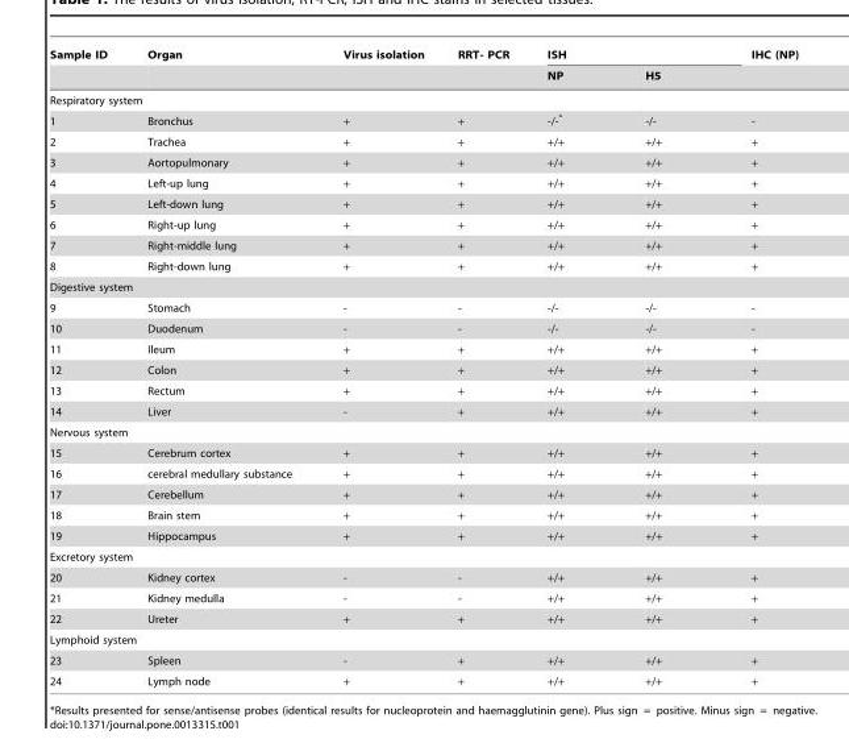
<table><thead><tr><td rowspan="2">Sample ID</td><td rowspan="2">Organ</td><td rowspan="2">Virus isolation</td><td rowspan="2">RRT- PCR</td><td colspan="2">ISH</td><td rowspan="2">IHC (NP)</td></tr><tr><td>NP</td><td>H5</td></tr></thead><tbody><tr><td colspan="7">Respiratory system</td></tr><tr><td>1</td><td>Bronchus</td><td>+</td><td>+</td><td>-/-*</td><td>-/-</td><td>-</td></tr><tr><td>2</td><td>Trachea</td><td>+</td><td>+</td><td>+/+</td><td>+/+</td><td>+</td></tr><tr><td>3</td><td>Aortopulmonary</td><td>+</td><td>+</td><td>+/+</td><td>+/+</td><td>+</td></tr><tr><td>4</td><td>Left-up lung</td><td>+</td><td>+</td><td>+/+</td><td>+/+</td><td>+</td></tr><tr><td>5</td><td>Left-down lung</td><td>+</td><td>+</td><td>+/+</td><td>+/+</td><td>+</td></tr><tr><td>6</td><td>Right-up lung</td><td>+</td><td>+</td><td>+/+</td><td>+/+</td><td>+</td></tr><tr><td>7</td><td>Right-middle lung</td><td>+</td><td>+</td><td>+/+</td><td>+/+</td><td>+</td></tr><tr><td>8</td><td>Right-down lung</td><td>+</td><td>+</td><td>+/+</td><td>+/+</td><td>+</td></tr><tr><td colspan="7">Digestive system</td></tr><tr><td>9</td><td>Stomach</td><td>-</td><td>-</td><td>-/-</td><td>-/-</td><td>-</td></tr><tr><td>10</td><td>Duodenum</td><td>-</td><td>-</td><td>-/-</td><td>-/-</td><td>-</td></tr><tr><td>11</td><td>Ileum</td><td>+</td><td>+</td><td>+/+</td><td>+/+</td><td>+</td></tr><tr><td>12</td><td>Colon</td><td>+</td><td>+</td><td>+/+</td><td>+/+</td><td>+</td></tr><tr><td>13</td><td>Rectum</td><td>+</td><td>+</td><td>+/+</td><td>+/+</td><td>+</td></tr><tr><td>14</td><td>Liver</td><td>-</td><td>+</td><td>+/+</td><td>+/+</td><td>+</td></tr><tr><td colspan="7">Nervous system</td></tr><tr><td>15</td><td>Cerebrum cortex</td><td>+</td><td>+</td><td>+/+</td><td>+/+</td><td>+</td></tr><tr><td>16</td><td>cerebral medullary substance</td><td>+</td><td>+</td><td>+/+</td><td>+/+</td><td>+</td></tr><tr><td>17</td><td>Cerebellum</td><td>+</td><td>+</td><td>+/+</td><td>+/+</td><td>+</td></tr><tr><td>18</td><td>Brain stem</td><td>+</td><td>+</td><td>+/+</td><td>+/+</td><td>+</td></tr><tr><td>19</td><td>Hippocampus</td><td>+</td><td>+</td><td>+/+</td><td>+/+</td><td>+</td></tr><tr><td colspan="7">Excretory system</td></tr><tr><td>20</td><td>Kidney cortex</td><td>-</td><td>-</td><td>+/+</td><td>+/+</td><td>+</td></tr><tr><td>21</td><td>Kidney medulla</td><td>-</td><td>-</td><td>+/+</td><td>+/+</td><td>+</td></tr><tr><td>22</td><td>Ureter</td><td>+</td><td>+</td><td>+/+</td><td>+/+</td><td>+</td></tr><tr><td colspan="7">Lymphoid system</td></tr><tr><td>23</td><td>Spleen</td><td>-</td><td>+</td><td>+/+</td><td>+/+</td><td>+</td></tr><tr><td>24</td><td>Lymph node</td><td>+</td><td>+</td><td>+/+</td><td>+/+</td><td>+</td></tr></tbody></table>